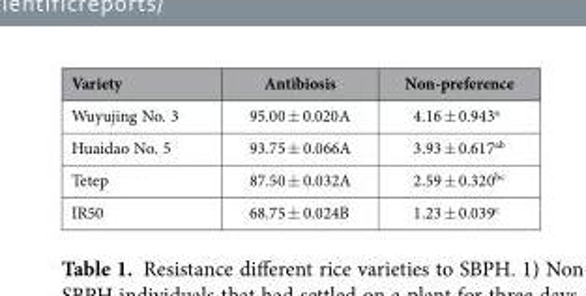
<table><thead><tr><td>Variety</td><td>Antibiosis</td><td>Non-preference</td></tr></thead><tbody><tr><td>Wuyujing No. 3</td><td>95.00 ± 0.020A</td><td>4.16 ± 0.943<sup>a</sup></td></tr><tr><td>Huaidao No. 5</td><td>93.75 ± 0.066A</td><td>3.93 ± 0.617<sup>ab</sup></td></tr><tr><td>Tetep</td><td>87.50 ± 0.032A</td><td>2.59 ± 0.320<sup>bc</sup></td></tr><tr><td>IR50</td><td>68.75 ± 0.024B</td><td>1.23 ± 0.039<sup>c</sup></td></tr></tbody></table>